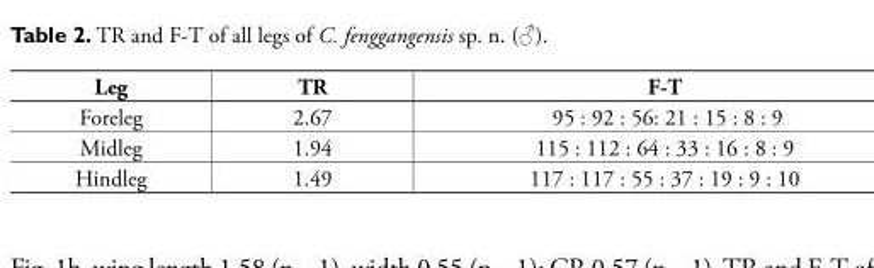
<table><thead><tr><td>Leg</td><td>TR</td><td>F-T</td></tr></thead><tbody><tr><td>Foreleg</td><td>2.67</td><td>95 : 92 : 56: 21 : 15 : 8 : 9</td></tr><tr><td>Midleg</td><td>1.94</td><td>115 : 112 : 64 : 33 : 16 : 8 : 9</td></tr><tr><td>Hindleg</td><td>1.49</td><td>117 : 117 : 55 : 37 : 19 : 9 : 10</td></tr></tbody></table>